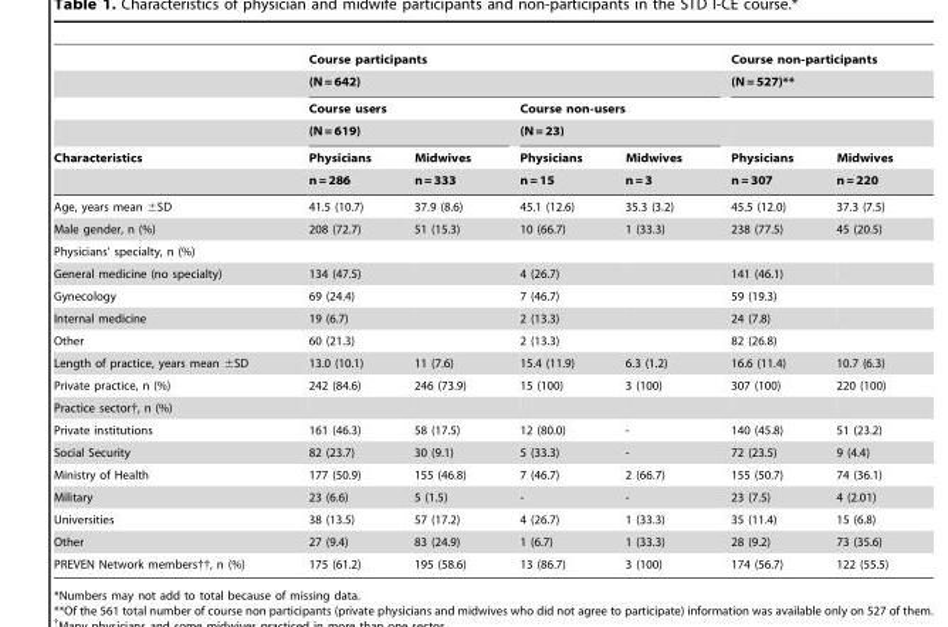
<table><thead><tr><td rowspan="6">Characteristics</td><td rowspan="2" colspan="4">Course participants (N = 642)</td><td rowspan="2" colspan="2">Course non-participants (N = 527)**</td></tr><tr></tr><tr><td rowspan="2" colspan="2">Course users (N = 619)</td><td rowspan="2" colspan="2">Course non-users (N = 23)</td><td rowspan="4">Physicians n = 307</td><td rowspan="4">Midwives n = 220</td></tr><tr></tr><tr><td rowspan="2">Physicians n = 286</td><td rowspan="2">Midwives n = 333</td><td rowspan="2">Physicians n = 15</td><td rowspan="2">Midwives n = 3</td></tr><tr></tr></thead><tbody><tr><td>Age, years mean ±SD</td><td>41.5 (10.7)</td><td>37.9 (8.6)</td><td>45.1 (12.6)</td><td>35.3 (3.2)</td><td>45.5 (12.0)</td><td>37.3 (7.5)</td></tr><tr><td>Male gender, n (%)</td><td>208 (72.7)</td><td>51 (15.3)</td><td>10 (66.7)</td><td>1 (33.3)</td><td>238 (77.5)</td><td>45 (20.5)</td></tr><tr><td colspan="7">Physicians’ specialty, n (%)</td></tr><tr><td>General medicine (no specialty)</td><td>134 (47.5)</td><td></td><td>4 (26.7)</td><td></td><td>141 (46.1)</td><td></td></tr><tr><td>Gynecology</td><td>69 (24.4)</td><td></td><td>7 (46.7)</td><td></td><td>59 (19.3)</td><td></td></tr><tr><td>Internal medicine</td><td>19 (6.7)</td><td></td><td>2 (13.3)</td><td></td><td>24 (7.8)</td><td></td></tr><tr><td>Other</td><td>60 (21.3)</td><td></td><td>2 (13.3)</td><td></td><td>82 (26.8)</td><td></td></tr><tr><td>Length of practice, years mean ±SD</td><td>13.0 (10.1)</td><td>11 (7.6)</td><td>15.4 (11.9)</td><td>6.3 (1.2)</td><td>16.6 (11.4)</td><td>10.7 (6.3)</td></tr><tr><td>Private practice, n (%)</td><td>242 (84.6)</td><td>246 (73.9)</td><td>15 (100)</td><td>3 (100)</td><td>307 (100)</td><td>220 (100)</td></tr><tr><td colspan="7">Practice sector†, n (%)</td></tr><tr><td>Private institutions</td><td>161 (46.3)</td><td>58 (17.5)</td><td>12 (80.0)</td><td>-</td><td>140 (45.8)</td><td>51 (23.2)</td></tr><tr><td>Social Security</td><td>82 (23.7)</td><td>30 (9.1)</td><td>5 (33.3)</td><td>-</td><td>72 (23.5)</td><td>9 (4.4)</td></tr><tr><td>Ministry of Health</td><td>177 (50.9)</td><td>155 (46.8)</td><td>7 (46.7)</td><td>2 (66.7)</td><td>155 (50.7)</td><td>74 (36.1)</td></tr><tr><td>Military</td><td>23 (6.6)</td><td>5 (1.5)</td><td>-</td><td>-</td><td>23 (7.5)</td><td>4 (2.01)</td></tr><tr><td>Universities</td><td>38 (13.5)</td><td>57 (17.2)</td><td>4 (26.7)</td><td>1 (33.3)</td><td>35 (11.4)</td><td>15 (6.8)</td></tr><tr><td>Other</td><td>27 (9.4)</td><td>83 (24.9)</td><td>1 (6.7)</td><td>1 (33.3)</td><td>28 (9.2)</td><td>73 (35.6)</td></tr><tr><td>PREVEN Network members††, n (%)</td><td>175 (61.2)</td><td>195 (58.6)</td><td>13 (86.7)</td><td>3 (100)</td><td>174 (56.7)</td><td>122 (55.5)</td></tr></tbody></table>